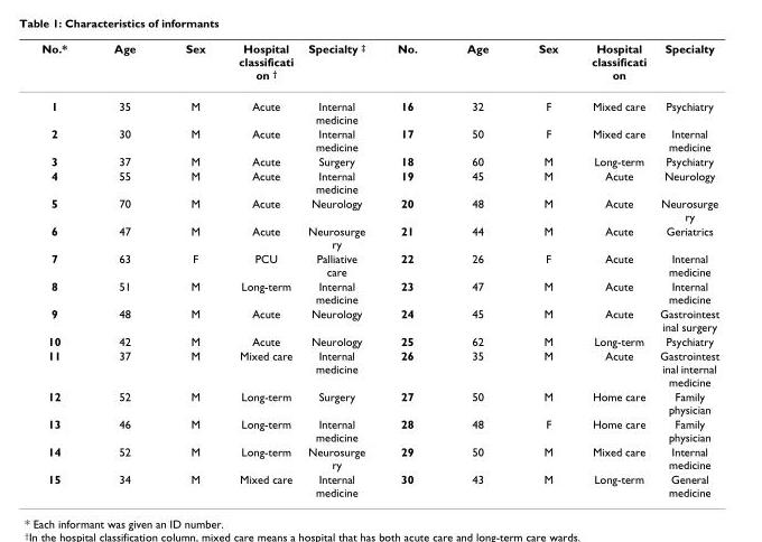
<table><thead><tr><td>No.*</td><td>Age</td><td>Sex</td><td>Hospital classificati on †</td><td>Specialty ‡</td><td>No.</td><td>Age</td><td>Sex</td><td>Hospital classificati on</td><td>Specialty</td></tr></thead><tbody><tr><td>1</td><td>35</td><td>M</td><td>Acute</td><td>Internal medicine</td><td>16</td><td>32</td><td>F</td><td>Mixed care</td><td>Psychiatry</td></tr><tr><td>2</td><td>30</td><td>M</td><td>Acute</td><td>Internal medicine</td><td>17</td><td>50</td><td>F</td><td>Mixed care</td><td>Internal medicine</td></tr><tr><td>3</td><td>37</td><td>M</td><td>Acute</td><td>Surgery</td><td>18</td><td>60</td><td>M</td><td>Long-term</td><td>Psychiatry</td></tr><tr><td>4</td><td>55</td><td>M</td><td>Acute</td><td>Internal medicine</td><td>19</td><td>45</td><td>M</td><td>Acute</td><td>Neurology</td></tr><tr><td>5</td><td>70</td><td>M</td><td>Acute</td><td>Neurology</td><td>20</td><td>48</td><td>M</td><td>Acute</td><td>Neurosurge ry</td></tr><tr><td>6</td><td>47</td><td>M</td><td>Acute</td><td>Neurosurge ry</td><td>21</td><td>44</td><td>M</td><td>Acute</td><td>Geriatrics</td></tr><tr><td>7</td><td>63</td><td>F</td><td>PCU</td><td>Palliative care</td><td>22</td><td>26</td><td>F</td><td>Acute</td><td>Internal medicine</td></tr><tr><td>8</td><td>51</td><td>M</td><td>Long-term</td><td>Internal medicine</td><td>23</td><td>47</td><td>M</td><td>Acute</td><td>Internal medicine</td></tr><tr><td>9</td><td>48</td><td>M</td><td>Acute</td><td>Neurology</td><td>24</td><td>45</td><td>M</td><td>Acute</td><td>Gastrointest inal surgery</td></tr><tr><td>10</td><td>42</td><td>M</td><td>Acute</td><td>Neurology</td><td>25</td><td>62</td><td>M</td><td>Long-term</td><td>Psychiatry</td></tr><tr><td>11</td><td>37</td><td>M</td><td>Mixed care</td><td>Internal medicine</td><td>26</td><td>35</td><td>M</td><td>Acute</td><td>Gastrointest inal internal medicine</td></tr><tr><td>12</td><td>52</td><td>M</td><td>Long-term</td><td>Surgery</td><td>27</td><td>50</td><td>M</td><td>Home care</td><td>Family physician</td></tr><tr><td>13</td><td>46</td><td>M</td><td>Long-term</td><td>Internal medicine</td><td>28</td><td>48</td><td>F</td><td>Home care</td><td>Family physician</td></tr><tr><td>14</td><td>52</td><td>M</td><td>Long-term</td><td>Neurosurge ry</td><td>29</td><td>50</td><td>M</td><td>Mixed care</td><td>Internal medicine</td></tr><tr><td>15</td><td>34</td><td>M</td><td>Mixed care</td><td>Internal medicine</td><td>30</td><td>43</td><td>M</td><td>Long-term</td><td>General medicine</td></tr></tbody></table>